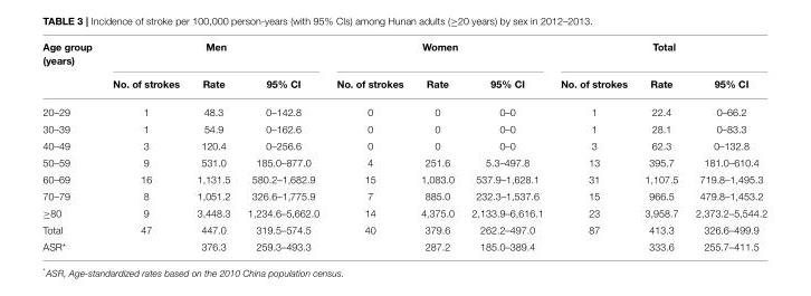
<table><thead><tr><td rowspan="2">Age group (years)</td><td colspan="3">Men</td><td colspan="3">Women</td><td colspan="3">Total</td></tr><tr><td>No. of strokes</td><td>Rate</td><td>95% CI</td><td>No. of strokes</td><td>Rate</td><td>95% CI</td><td>No. of strokes</td><td>Rate</td><td>95% CI</td></tr></thead><tbody><tr><td>20–29</td><td>1</td><td>48.3</td><td>0–142.8</td><td>0</td><td>0</td><td>0–0</td><td>1</td><td>22.4</td><td>0–66.2</td></tr><tr><td>30–39</td><td>1</td><td>54.9</td><td>0–162.6</td><td>0</td><td>0</td><td>0–0</td><td>1</td><td>28.1</td><td>0–83.3</td></tr><tr><td>40–49</td><td>3</td><td>120.4</td><td>0–256.6</td><td>0</td><td>0</td><td>0–0</td><td>3</td><td>62.3</td><td>0–132.8</td></tr><tr><td>50–59</td><td>9</td><td>531.0</td><td>185.0–877.0</td><td>4</td><td>251.6</td><td>5.3–497.8</td><td>13</td><td>395.7</td><td>181.0–610.4</td></tr><tr><td>60–69</td><td>16</td><td>1,131.5</td><td>580.2–1,682.9</td><td>15</td><td>1,083.0</td><td>537.9–1,628.1</td><td>31</td><td>1,107.5</td><td>719.8–1,495.3</td></tr><tr><td>70–79</td><td>8</td><td>1,051.2</td><td>326.6–1,775.9</td><td>7</td><td>885.0</td><td>232.3–1,537.6</td><td>15</td><td>966.5</td><td>479.8–1,453.2</td></tr><tr><td>≥80</td><td>9</td><td>3,448.3</td><td>1,234.6–5,662.0</td><td>14</td><td>4,375.0</td><td>2,133.9–6,616.1</td><td>23</td><td>3,958.7</td><td>2,373.2–5,544.2</td></tr><tr><td>Total</td><td>47</td><td>447.0</td><td>319.5–574.5</td><td>40</td><td>379.6</td><td>262.2–497.0</td><td>87</td><td>413.3</td><td>326.6–499.9</td></tr><tr><td>ASR*</td><td></td><td>376.3</td><td>259.3–493.3</td><td></td><td>287.2</td><td>185.0–389.4</td><td></td><td>333.6</td><td>255.7–411.5</td></tr></tbody></table>